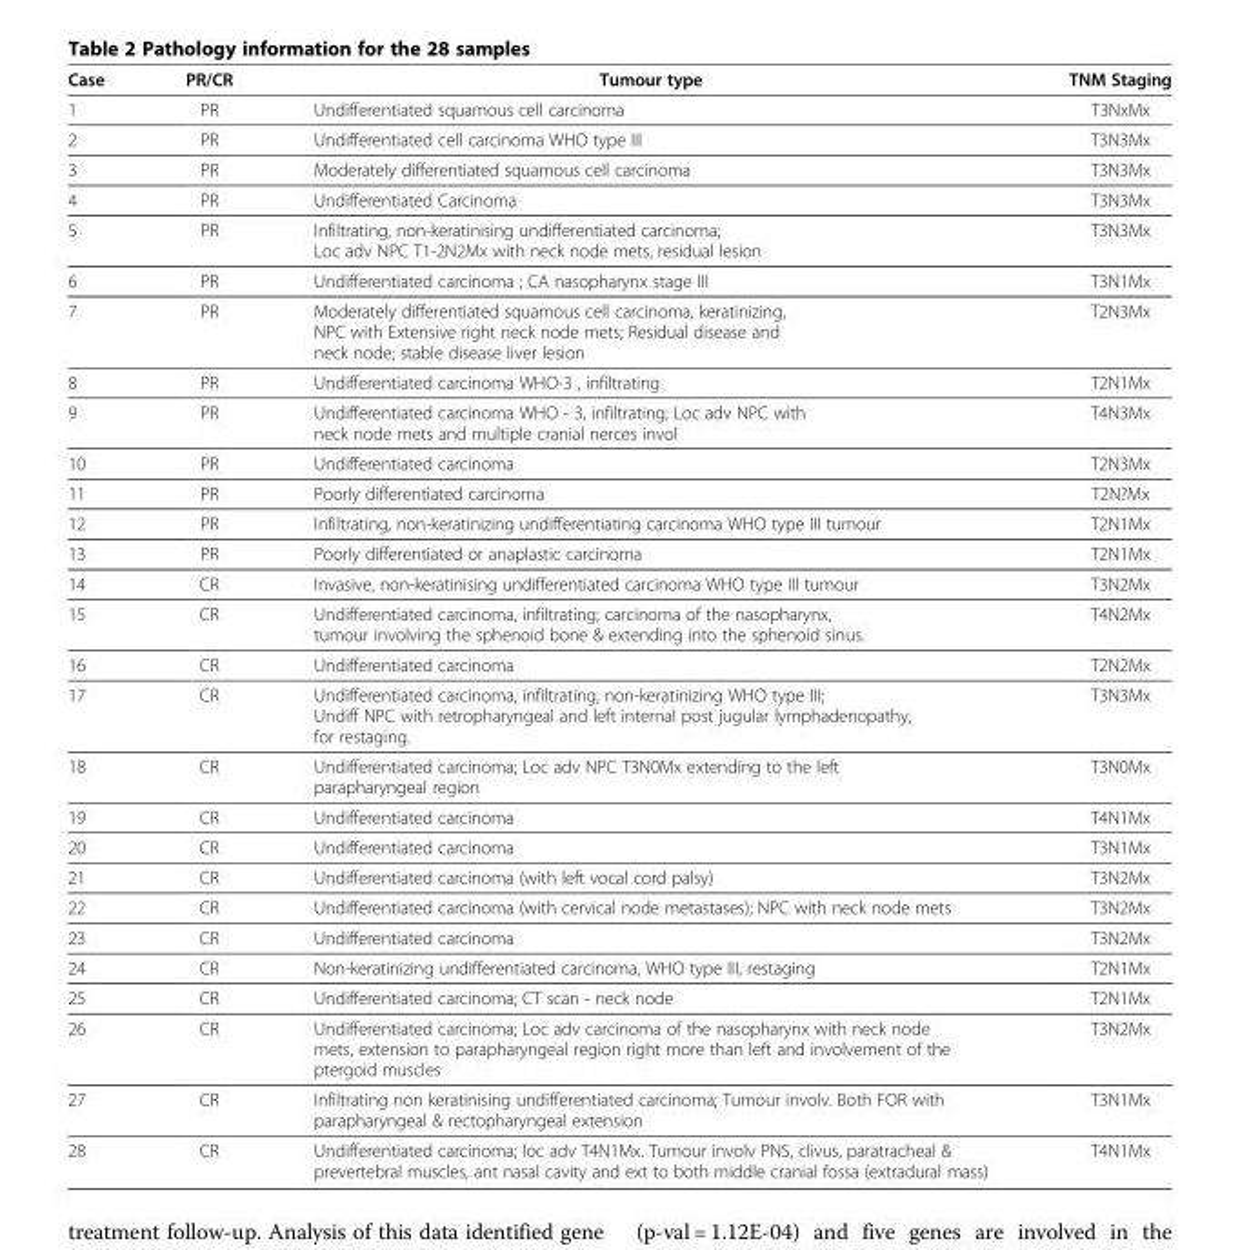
<table><thead><tr><td>Case</td><td>PR/CR</td><td>Tumour type</td><td>TNM Staging</td></tr></thead><tbody><tr><td>1</td><td>PR</td><td>Undifferentiated squamous cell carcinoma</td><td>T3NxMx</td></tr><tr><td>2</td><td>PR</td><td>Undifferentiated cell carcinoma WHO type III</td><td>T3N3Mx</td></tr><tr><td>3</td><td>PR</td><td>Moderately differentiated squamous cell carcinoma</td><td>T3N3Mx</td></tr><tr><td>4</td><td>PR</td><td>Undifferentiated Carcinoma</td><td>T3N3Mx</td></tr><tr><td>5</td><td>PR</td><td>Infiltrating, non-keratinising undifferentiated carcinoma; Loc adv NPC T1-2N2Mx with neck node mets, residual lesion</td><td>T3N3Mx</td></tr><tr><td>6</td><td>PR</td><td>Undifferentiated carcinoma ; CA nasopharynx stage III</td><td>T3N1Mx</td></tr><tr><td>7</td><td>PR</td><td>Moderately differentiated squamous cell carcinoma, keratinizing, NPC with Extensive right neck node mets; Residual disease and neck node; stable disease liver lesion</td><td>T2N3Mx</td></tr><tr><td>8</td><td>PR</td><td>Undifferentiated carcinoma WHO-3 , infiltrating</td><td>T2N1Mx</td></tr><tr><td>9</td><td>PR</td><td>Undifferentiated carcinoma WHO - 3, infiltrating; Loc adv NPC with neck node mets and multiple cranial nerces invol</td><td>T4N3Mx</td></tr><tr><td>10</td><td>PR</td><td>Undifferentiated carcinoma</td><td>T2N3Mx</td></tr><tr><td>11</td><td>PR</td><td>Poorly differentiated carcinoma</td><td>T2N?Mx</td></tr><tr><td>12</td><td>PR</td><td>Infiltrating, non-keratinizing undifferentiating carcinoma WHO type III tumour</td><td>T2N1Mx</td></tr><tr><td>13</td><td>PR</td><td>Poorly differentiated or anaplastic carcinoma</td><td>T2N1Mx</td></tr><tr><td>14</td><td>CR</td><td>Invasive, non-keratinising undifferentiated carcinoma WHO type III tumour</td><td>T3N2Mx</td></tr><tr><td>15</td><td>CR</td><td>Undifferentiated carcinoma, infiltrating; carcinoma of the nasopharynx, tumour involving the sphenoid bone &amp; extending into the sphenoid sinus.</td><td>T4N2Mx</td></tr><tr><td>16</td><td>CR</td><td>Undifferentiated carcinoma</td><td>T2N2Mx</td></tr><tr><td>17</td><td>CR</td><td>Undifferentiated carcinoma, infiltrating, non-keratinizing WHO type III; Undiff NPC with retropharyngeal and left internal post jugular lymphadenopathy, for restaging.</td><td>T3N3Mx</td></tr><tr><td>18</td><td>CR</td><td>Undifferentiated carcinoma; Loc adv NPC T3N0Mx extending to the left parapharyngeal region</td><td>T3N0Mx</td></tr><tr><td>19</td><td>CR</td><td>Undifferentiated carcinoma</td><td>T4N1Mx</td></tr><tr><td>20</td><td>CR</td><td>Undifferentiated carcinoma</td><td>T3N1Mx</td></tr><tr><td>21</td><td>CR</td><td>Undifferentiated carcinoma (with left vocal cord palsy)</td><td>T3N2Mx</td></tr><tr><td>22</td><td>CR</td><td>Undifferentiated carcinoma (with cervical node metastases); NPC with neck node mets</td><td>T3N2Mx</td></tr><tr><td>23</td><td>CR</td><td>Undifferentiated carcinoma</td><td>T3N2Mx</td></tr><tr><td>24</td><td>CR</td><td>Non-keratinizing undifferentiated carcinoma, WHO type III, restaging</td><td>T2N1Mx</td></tr><tr><td>25</td><td>CR</td><td>Undifferentiated carcinoma; CT scan - neck node</td><td>T2N1Mx</td></tr><tr><td>26</td><td>CR</td><td>Undifferentiated carcinoma; Loc adv carcinoma of the nasopharynx with neck node mets, extension to parapharyngeal region right more than left and involvement of the ptergoid muscles</td><td>T3N2Mx</td></tr><tr><td>27</td><td>CR</td><td>Infiltrating non keratinising undifferentiated carcinoma; Tumour involv. Both FOR with parapharyngeal &amp; rectopharyngeal extension</td><td>T3N1Mx</td></tr><tr><td>28</td><td>CR</td><td>Undifferentiated carcinoma; loc adv T4N1Mx. Tumour involv PNS, clivus, paratracheal &amp; prevertebral muscles, ant nasal cavity and ext to both middle cranial fossa (extradural mass)</td><td>T4N1Mx</td></tr></tbody></table>